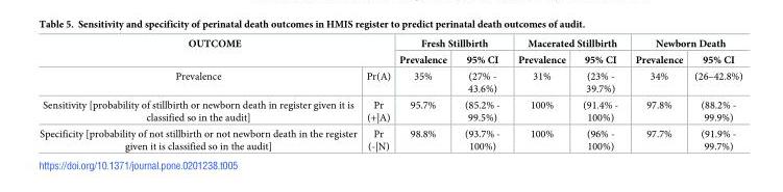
<table><thead><tr><td rowspan="2" colspan="2">OUTCOME</td><td colspan="2">Fresh Stillbirth</td><td colspan="2">Macerated Stillbirth</td><td colspan="2">Newborn Death</td></tr><tr><td rowspan="2">Prevalence 35%</td><td rowspan="2">95% CI (27% - 43.6%)</td><td rowspan="2">Prevalence 31%</td><td rowspan="2">95% CI (23% - 39.7%)</td><td rowspan="2">Prevalence 34%</td><td rowspan="2">95% CI (26–42.8%)</td></tr><tr><td>Prevalence</td><td>Pr(A)</td></tr></thead><tbody><tr><td>Sensitivity [probability of stillbirth or newborn death in register given it is classified so in the audit]</td><td>Pr (+|A)</td><td>95.7%</td><td>(85.2% - 99.5%)</td><td>100%</td><td>(91.4% - 100%)</td><td>97.8%</td><td>(88.2% - 99.9%)</td></tr><tr><td>Specificity [probability of not stillbirth or not newborn death in the register given it is classified so in the audit]</td><td>Pr (-|N)</td><td>98.8%</td><td>(93.7% - 100%)</td><td>100%</td><td>(96% - 100%)</td><td>97.7%</td><td>(91.9% - 99.7%)</td></tr></tbody></table>